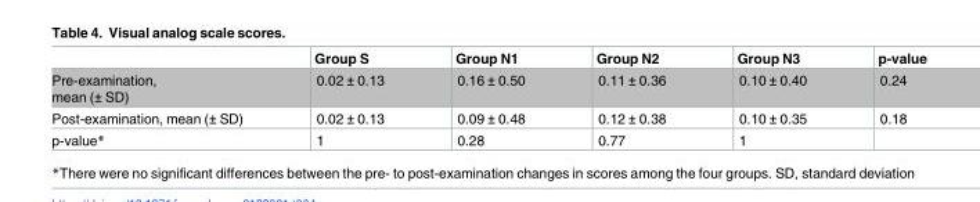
<table><thead><tr><td></td><td>Group S</td><td>Group N1</td><td>Group N2</td><td>Group N3</td><td>p-value</td></tr></thead><tbody><tr><td>Pre-examination, mean (± SD)</td><td>0.02 ± 0.13</td><td>0.16 ± 0.50</td><td>0.11 ± 0.36</td><td>0.10 ± 0.40</td><td>0.24</td></tr><tr><td>Post-examination, mean (± SD)</td><td>0.02 ± 0.13</td><td>0.09 ± 0.48</td><td>0.12 ± 0.38</td><td>0.10 ± 0.35</td><td>0.18</td></tr><tr><td>p-value*</td><td>1</td><td>0.28</td><td>0.77</td><td>1</td><td></td></tr></tbody></table>